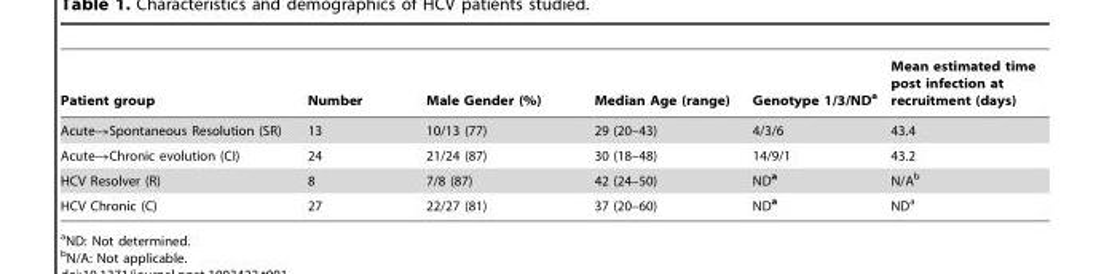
<table><thead><tr><td>Patient group</td><td>Number</td><td>Male Gender (%)</td><td>Median Age (range)</td><td>Genotype 1/3/ND<sup>a</sup></td><td>Mean estimated time post infection at recruitment (days)</td></tr></thead><tbody><tr><td>Acute→Spontaneous Resolution (SR)</td><td>13</td><td>10/13 (77)</td><td>29 (20–43)</td><td>4/3/6</td><td>43.4</td></tr><tr><td>Acute→Chronic evolution (CI)</td><td>24</td><td>21/24 (87)</td><td>30 (18–48)</td><td>14/9/1</td><td>43.2</td></tr><tr><td>HCV Resolver (R)</td><td>8</td><td>7/8 (87)</td><td>42 (24–50)</td><td>ND<sup>a</sup></td><td>N/A<sup>b</sup></td></tr><tr><td>HCV Chronic (C)</td><td>27</td><td>22/27 (81)</td><td>37 (20–60)</td><td>ND<sup>a</sup></td><td>ND<sup>a</sup></td></tr></tbody></table>